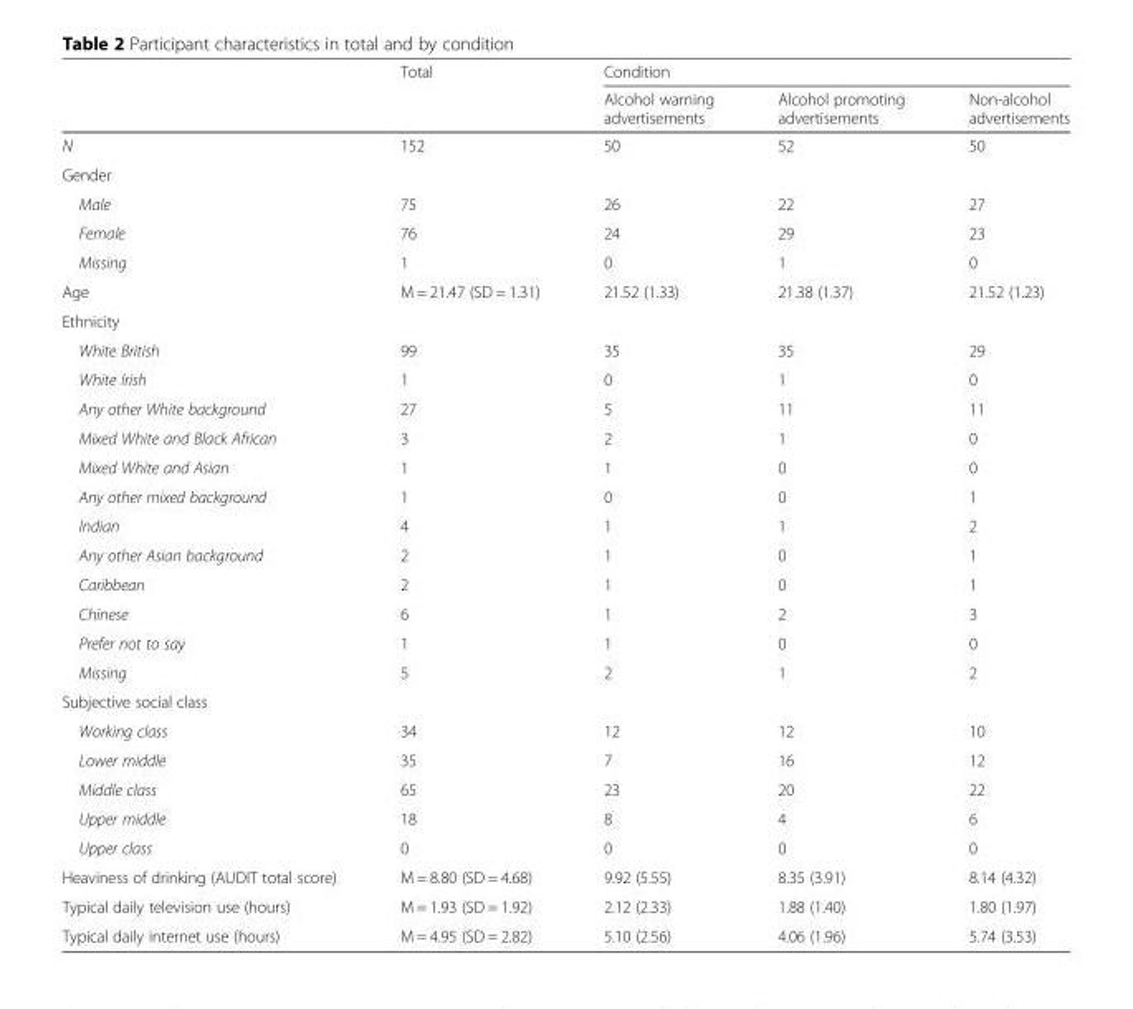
<table><thead><tr><td rowspan="2"></td><td rowspan="2">Total</td><td colspan="3">Condition</td></tr><tr><td>Alcohol warning advertisements</td><td>Alcohol promoting advertisements</td><td>Non-alcohol advertisements</td></tr></thead><tbody><tr><td>N</td><td>152</td><td>50</td><td>52</td><td>50</td></tr><tr><td colspan="5">Gender</td></tr><tr><td>Male</td><td>75</td><td>26</td><td>22</td><td>27</td></tr><tr><td>Female</td><td>76</td><td>24</td><td>29</td><td>23</td></tr><tr><td>Missing</td><td>1</td><td>0</td><td>1</td><td>0</td></tr><tr><td>Age</td><td>M = 21.47 (SD = 1.31)</td><td>21.52 (1.33)</td><td>21.38 (1.37)</td><td>21.52 (1.23)</td></tr><tr><td colspan="5">Ethnicity</td></tr><tr><td>White British</td><td>99</td><td>35</td><td>35</td><td>29</td></tr><tr><td>White Irish</td><td>1</td><td>0</td><td>1</td><td>0</td></tr><tr><td>Any other White background</td><td>27</td><td>5</td><td>11</td><td>11</td></tr><tr><td>Mixed White and Black African</td><td>3</td><td>2</td><td>1</td><td>0</td></tr><tr><td>Mixed White and Asian</td><td>1</td><td>1</td><td>0</td><td>0</td></tr><tr><td>Any other mixed background</td><td>1</td><td>0</td><td>0</td><td>1</td></tr><tr><td>Indian</td><td>4</td><td>1</td><td>1</td><td>2</td></tr><tr><td>Any other Asian background</td><td>2</td><td>1</td><td>0</td><td>1</td></tr><tr><td>Caribbean</td><td>2</td><td>1</td><td>0</td><td>1</td></tr><tr><td>Chinese</td><td>6</td><td>1</td><td>2</td><td>3</td></tr><tr><td>Prefer not to say</td><td>1</td><td>1</td><td>0</td><td>0</td></tr><tr><td>Missing</td><td>5</td><td>2</td><td>1</td><td>2</td></tr><tr><td colspan="5">Subjective social class</td></tr><tr><td>Working class</td><td>34</td><td>12</td><td>12</td><td>10</td></tr><tr><td>Lower middle</td><td>35</td><td>7</td><td>16</td><td>12</td></tr><tr><td>Middle class</td><td>65</td><td>23</td><td>20</td><td>22</td></tr><tr><td>Upper middle</td><td>18</td><td>8</td><td>4</td><td>6</td></tr><tr><td>Upper class</td><td>0</td><td>0</td><td>0</td><td>0</td></tr><tr><td>Heaviness of drinking (AUDIT total score)</td><td>M = 8.80 (SD = 4.68)</td><td>9.92 (5.55)</td><td>8.35 (3.91)</td><td>8.14 (4.32)</td></tr><tr><td>Typical daily television use (hours)</td><td>M = 1.93 (SD = 1.92)</td><td>2.12 (2.33)</td><td>1.88 (1.40)</td><td>1.80 (1.97)</td></tr><tr><td>Typical daily internet use (hours)</td><td>M = 4.95 (SD = 2.82)</td><td>5.10 (2.56)</td><td>4.06 (1.96)</td><td>5.74 (3.53)</td></tr></tbody></table>